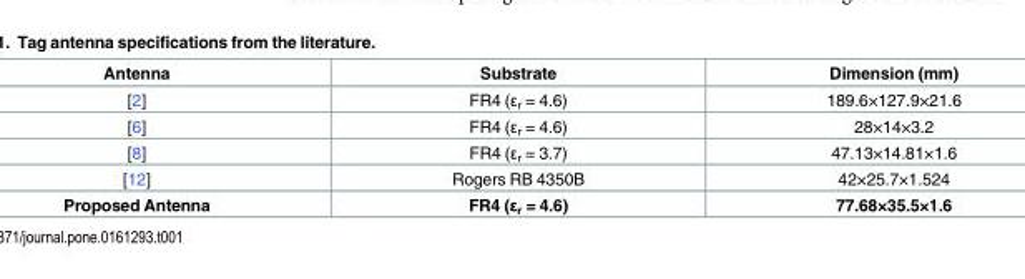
<table><thead><tr><td>Antenna</td><td>Substrate</td><td>Dimension (mm)</td></tr></thead><tbody><tr><td>[2]</td><td>FR4 (εr = 4.6)</td><td>189.6×127.9×21.6</td></tr><tr><td>[6]</td><td>FR4 (εr = 4.6)</td><td>28×14×3.2</td></tr><tr><td>[8]</td><td>FR4 (εr = 3.7)</td><td>47.13×14.81×1.6</td></tr><tr><td>[12]</td><td>Rogers RB 4350B</td><td>42×25.7×1.524</td></tr><tr><td>Proposed Antenna</td><td>FR4 (εr = 4.6)</td><td>77.68×35.5×1.6</td></tr></tbody></table>